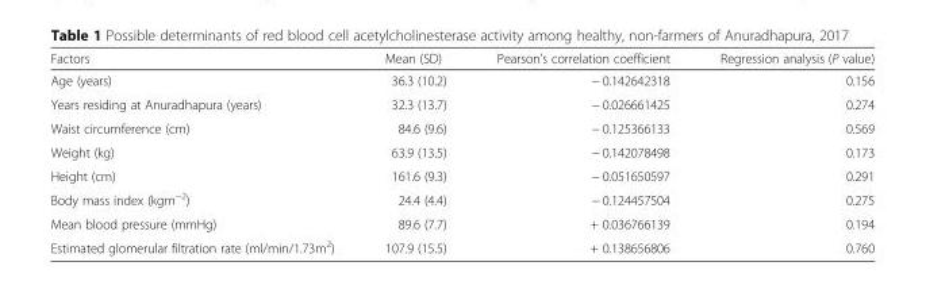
<table><thead><tr><td>Factors</td><td>Mean (SD)</td><td>Pearson’s correlation coefficient</td><td>Regression analysis (P value)</td></tr></thead><tbody><tr><td>Age (years)</td><td>36.3 (10.2)</td><td>− 0.142642318</td><td>0.156</td></tr><tr><td>Years residing at Anuradhapura (years)</td><td>32.3 (13.7)</td><td>− 0.026661425</td><td>0.274</td></tr><tr><td>Waist circumference (cm)</td><td>84.6 (9.6)</td><td>− 0.125366133</td><td>0.569</td></tr><tr><td>Weight (kg)</td><td>63.9 (13.5)</td><td>− 0.142078498</td><td>0.173</td></tr><tr><td>Height (cm)</td><td>161.6 (9.3)</td><td>− 0.051650597</td><td>0.291</td></tr><tr><td>Body mass index (kgm<sup>−2</sup>)</td><td>24.4 (4.4)</td><td>− 0.124457504</td><td>0.275</td></tr><tr><td>Mean blood pressure (mmHg)</td><td>89.6 (7.7)</td><td>+ 0.036766139</td><td>0.194</td></tr><tr><td>Estimated glomerular filtration rate (ml/min/1.73m<sup>2</sup>)</td><td>107.9 (15.5)</td><td>+ 0.138656806</td><td>0.760</td></tr></tbody></table>